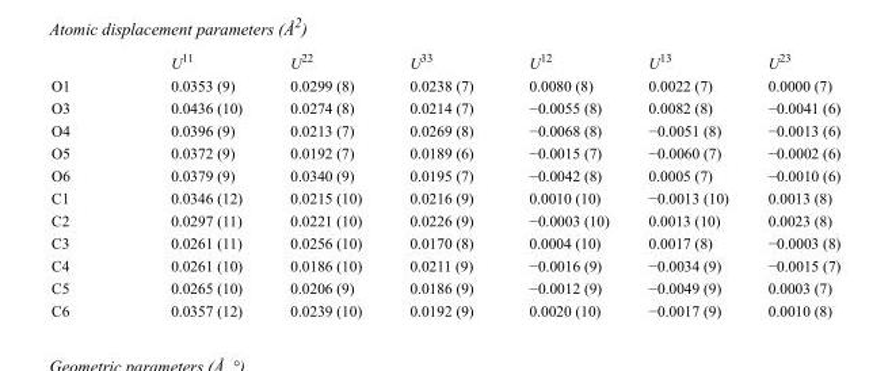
<table><thead><tr><td></td><td>U<sup>11</sup></td><td>U<sup>22</sup></td><td>U<sup>33</sup></td><td>U<sup>12</sup></td><td>U<sup>13</sup></td><td>U<sup>23</sup></td></tr></thead><tbody><tr><td>O1</td><td>0.0353 (9)</td><td>0.0299 (8)</td><td>0.0238 (7)</td><td>0.0080 (8)</td><td>0.0022 (7)</td><td>0.0000 (7)</td></tr><tr><td>O3</td><td>0.0436 (10)</td><td>0.0274 (8)</td><td>0.0214 (7)</td><td>−0.0055 (8)</td><td>0.0082 (8)</td><td>−0.0041 (6)</td></tr><tr><td>O4</td><td>0.0396 (9)</td><td>0.0213 (7)</td><td>0.0269 (8)</td><td>−0.0068 (8)</td><td>−0.0051 (8)</td><td>−0.0013 (6)</td></tr><tr><td>O5</td><td>0.0372 (9)</td><td>0.0192 (7)</td><td>0.0189 (6)</td><td>−0.0015 (7)</td><td>−0.0060 (7)</td><td>−0.0002 (6)</td></tr><tr><td>O6</td><td>0.0379 (9)</td><td>0.0340 (9)</td><td>0.0195 (7)</td><td>−0.0042 (8)</td><td>0.0005 (7)</td><td>−0.0010 (6)</td></tr><tr><td>C1</td><td>0.0346 (12)</td><td>0.0215 (10)</td><td>0.0216 (9)</td><td>0.0010 (10)</td><td>−0.0013 (10)</td><td>0.0013 (8)</td></tr><tr><td>C2</td><td>0.0297 (11)</td><td>0.0221 (10)</td><td>0.0226 (9)</td><td>−0.0003 (10)</td><td>0.0013 (10)</td><td>0.0023 (8)</td></tr><tr><td>C3</td><td>0.0261 (11)</td><td>0.0256 (10)</td><td>0.0170 (8)</td><td>0.0004 (10)</td><td>0.0017 (8)</td><td>−0.0003 (8)</td></tr><tr><td>C4</td><td>0.0261 (10)</td><td>0.0186 (10)</td><td>0.0211 (9)</td><td>−0.0016 (9)</td><td>−0.0034 (9)</td><td>−0.0015 (7)</td></tr><tr><td>C5</td><td>0.0265 (10)</td><td>0.0206 (9)</td><td>0.0186 (9)</td><td>−0.0012 (9)</td><td>−0.0049 (9)</td><td>0.0003 (7)</td></tr><tr><td>C6</td><td>0.0357 (12)</td><td>0.0239 (10)</td><td>0.0192 (9)</td><td>0.0020 (10)</td><td>−0.0017 (9)</td><td>0.0010 (8)</td></tr></tbody></table>